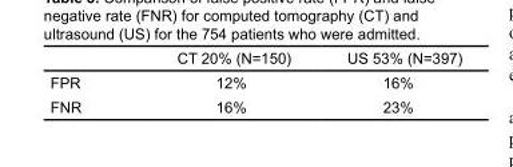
<table><thead><tr><td></td><td>CT 20% (N=150)</td><td>US 53% (N=397)</td></tr></thead><tbody><tr><td>FPR</td><td>12%</td><td>16%</td></tr><tr><td>FNR</td><td>16%</td><td>23%</td></tr></tbody></table>